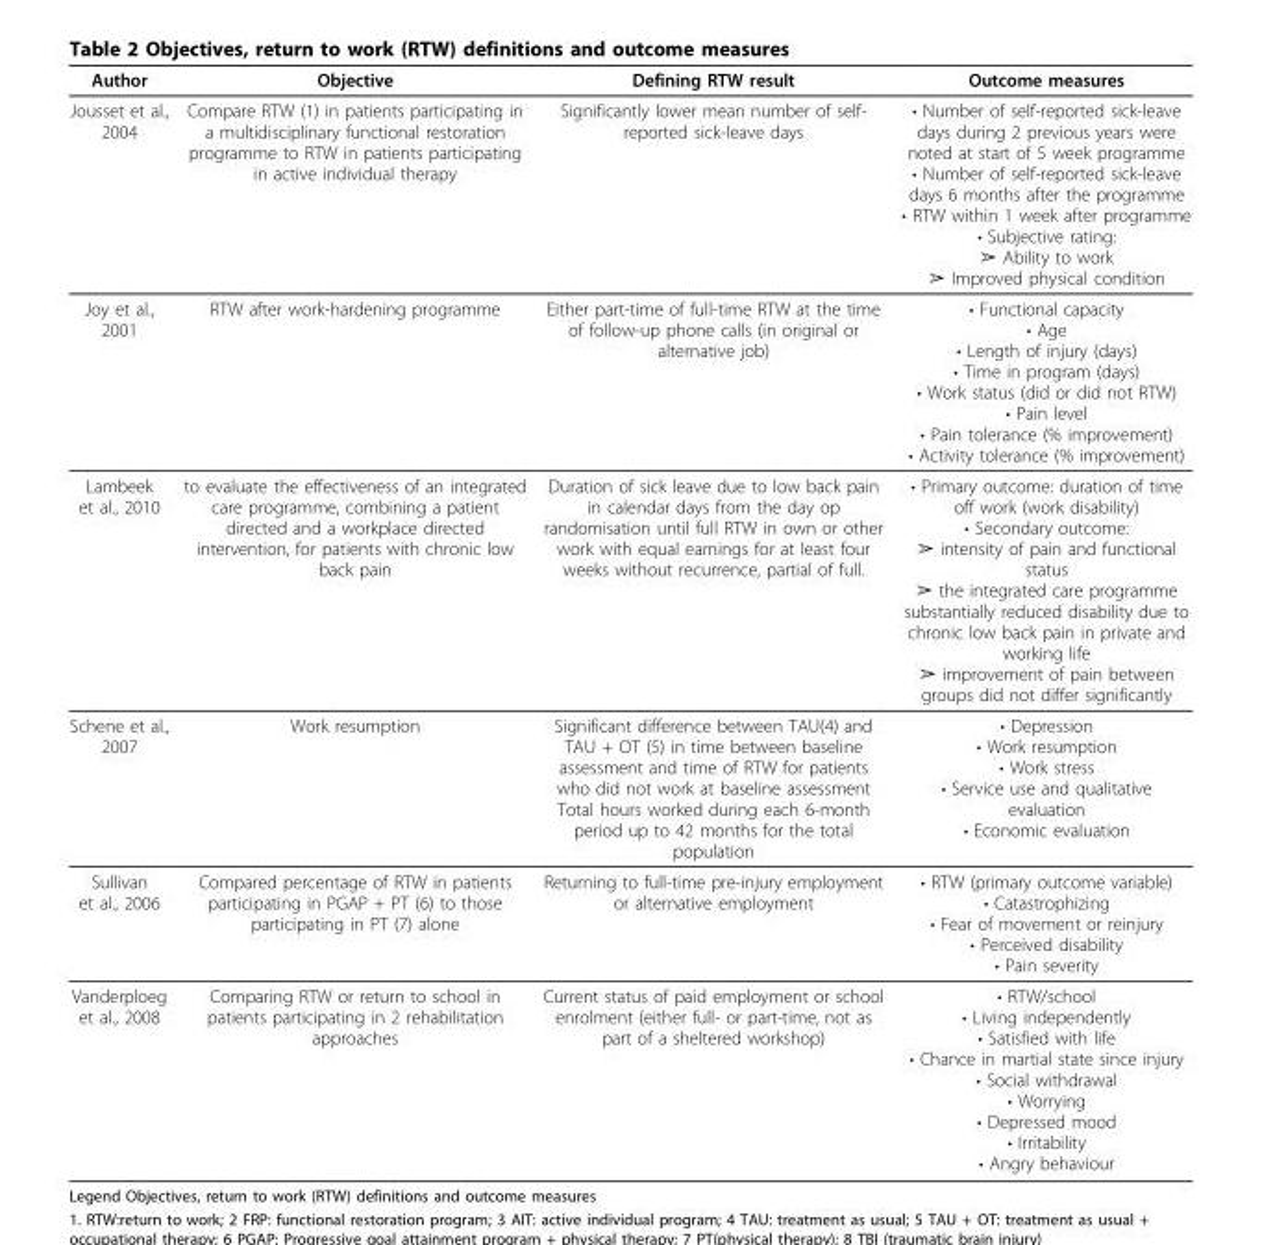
<table><thead><tr><td>Author</td><td>Objective</td><td>Defining RTW result</td><td>Outcome measures</td></tr></thead><tbody><tr><td>Jousset et al., 2004</td><td>Compare RTW (1) in patients participating in a multidisciplinary functional restoration programme to RTW in patients participating in active individual therapy</td><td>Significantly lower mean number of self- reported sick-leave days</td><td>• Number of self-reported sick-leave days during 2 previous years were noted at start of 5 week programme • Number of self-reported sick-leave days 6 months after the programme • RTW within 1 week after programme • Subjective rating: ➢ Ability to work ➢ Improved physical condition</td></tr><tr><td>Joy et al., 2001</td><td>RTW after work-hardening programme</td><td>Either part-time of full-time RTW at the time of follow-up phone calls (in original or alternative job)</td><td>• Functional capacity • Age • Length of injury (days) • Time in program (days) • Work status (did or did not RTW) • Pain level • Pain tolerance (% improvement) • Activity tolerance (% improvement)</td></tr><tr><td>Lambeek et al., 2010</td><td>to evaluate the effectiveness of an integrated care programme, combining a patient directed and a workplace directed intervention, for patients with chronic low back pain</td><td>Duration of sick leave due to low back pain in calendar days from the day op randomisation until full RTW in own or other work with equal earnings for at least four weeks without recurrence, partial of full.</td><td>• Primary outcome: duration of time off work (work disability) • Secondary outcome: ➢ intensity of pain and functional status ➢ the integrated care programme substantially reduced disability due to chronic low back pain in private and working life ➢ improvement of pain between groups did not differ significantly</td></tr><tr><td>Schene et al., 2007</td><td>Work resumption</td><td>Significant difference between TAU(4) and TAU + OT (5) in time between baseline assessment and time of RTW for patients who did not work at baseline assessment Total hours worked during each 6-month period up to 42 months for the total population</td><td>• Depression • Work resumption • Work stress • Service use and qualitative evaluation • Economic evaluation</td></tr><tr><td>Sullivan et al., 2006</td><td>Compared percentage of RTW in patients participating in PGAP + PT (6) to those participating in PT (7) alone</td><td>Returning to full-time pre-injury employment or alternative employment</td><td>• RTW (primary outcome variable) • Catastrophizing • Fear of movement or reinjury • Perceived disability • Pain severity</td></tr><tr><td>Vanderploeg et al., 2008</td><td>Comparing RTW or return to school in patients participating in 2 rehabilitation approaches</td><td>Current status of paid employment or school enrolment (either full- or part-time, not as part of a sheltered workshop)</td><td>• RTW/school • Living independently • Satisfied with life • Chance in martial state since injury • Social withdrawal • Worrying • Depressed mood • Irritability • Angry behaviour</td></tr></tbody></table>